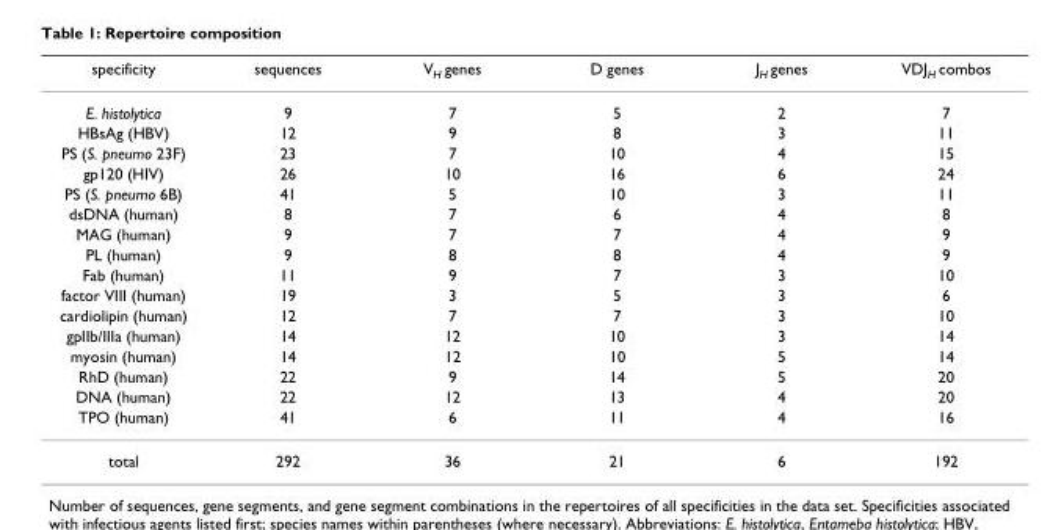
<table><thead><tr><td>specificity</td><td>sequences</td><td>V<sub>H</sub> genes</td><td>D genes</td><td>J<sub>H</sub> genes</td><td>VDJ<sub>H</sub> combos</td></tr></thead><tbody><tr><td>E. histolytica</td><td>9</td><td>7</td><td>5</td><td>2</td><td>7</td></tr><tr><td>HBsAg (HBV)</td><td>12</td><td>9</td><td>8</td><td>3</td><td>11</td></tr><tr><td>PS (S. pneumo 23F)</td><td>23</td><td>7</td><td>10</td><td>4</td><td>15</td></tr><tr><td>gp120 (HIV)</td><td>26</td><td>10</td><td>16</td><td>6</td><td>24</td></tr><tr><td>PS (S. pneumo 6B)</td><td>41</td><td>5</td><td>10</td><td>3</td><td>11</td></tr><tr><td>dsDNA (human)</td><td>8</td><td>7</td><td>6</td><td>4</td><td>8</td></tr><tr><td>MAG (human)</td><td>9</td><td>7</td><td>7</td><td>4</td><td>9</td></tr><tr><td>PL (human)</td><td>9</td><td>8</td><td>8</td><td>4</td><td>9</td></tr><tr><td>Fab (human)</td><td>11</td><td>9</td><td>7</td><td>3</td><td>10</td></tr><tr><td>factor VIII (human)</td><td>19</td><td>3</td><td>5</td><td>3</td><td>6</td></tr><tr><td>cardiolipin (human)</td><td>12</td><td>7</td><td>7</td><td>3</td><td>10</td></tr><tr><td>gpIIb/IIIa (human)</td><td>14</td><td>12</td><td>10</td><td>3</td><td>14</td></tr><tr><td>myosin (human)</td><td>14</td><td>12</td><td>10</td><td>5</td><td>14</td></tr><tr><td>RhD (human)</td><td>22</td><td>9</td><td>14</td><td>5</td><td>20</td></tr><tr><td>DNA (human)</td><td>22</td><td>12</td><td>13</td><td>4</td><td>20</td></tr><tr><td>TPO (human)</td><td>41</td><td>6</td><td>11</td><td>4</td><td>16</td></tr><tr><td>total</td><td>292</td><td>36</td><td>21</td><td>6</td><td>192</td></tr></tbody></table>